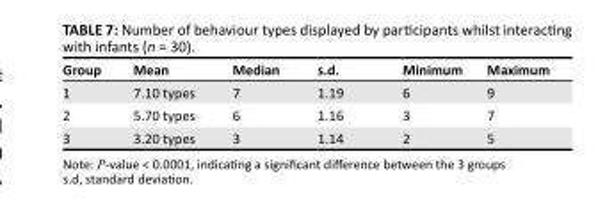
<table><thead><tr><td>Group</td><td>Mean</td><td>Median</td><td>s.d.</td><td>Minimum</td><td>Maximum</td></tr></thead><tbody><tr><td>1</td><td>7.10 types</td><td>7</td><td>1.19</td><td>6</td><td>9</td></tr><tr><td>2</td><td>5.70 types</td><td>6</td><td>1.16</td><td>3</td><td>7</td></tr><tr><td>3</td><td>3.20 types</td><td>3</td><td>1.14</td><td>2</td><td>5</td></tr></tbody></table>